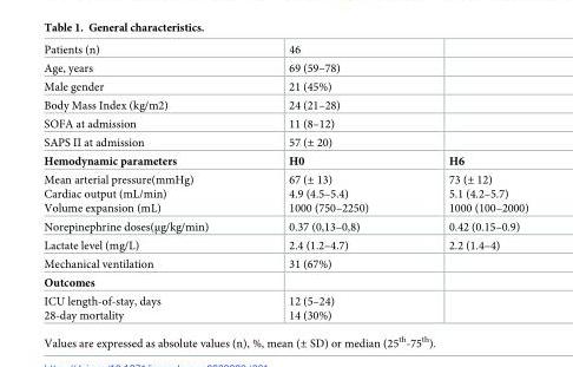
<table><tbody><tr><td>Patients (n)</td><td>46</td><td></td></tr><tr><td>Age, years</td><td>69 (59–78)</td><td></td></tr><tr><td>Male gender</td><td>21 (45%)</td><td></td></tr><tr><td>Body Mass Index (kg/m2)</td><td>24 (21–28)</td><td></td></tr><tr><td>SOFA at admission</td><td>11 (8–12)</td><td></td></tr><tr><td>SAPS II at admission</td><td>57 (± 20)</td><td></td></tr><tr><td>Hemodynamic parameters</td><td>H0</td><td>H6</td></tr><tr><td>Mean arterial pressure(mmHg) Cardiac output (mL/min) Volume expansion (mL)</td><td>67 (± 13) 4.9 (4.5–5.4) 1000 (750–2250)</td><td>73 (± 12) 5.1 (4.2–5.7) 1000 (100–2000)</td></tr><tr><td>Norepinephrine doses(μg/kg/min)</td><td>0.37 (0,13–0,8)</td><td>0.42 (0.15–0.9)</td></tr><tr><td>Lactate level (mg/L)</td><td>2.4 (1.2–4.7)</td><td>2.2 (1.4–4)</td></tr><tr><td>Mechanical ventilation</td><td>31 (67%)</td><td></td></tr><tr><td colspan="3">Outcomes</td></tr><tr><td>ICU length-of-stay, days 28-day mortality</td><td>12 (5–24) 14 (30%)</td><td></td></tr></tbody></table>